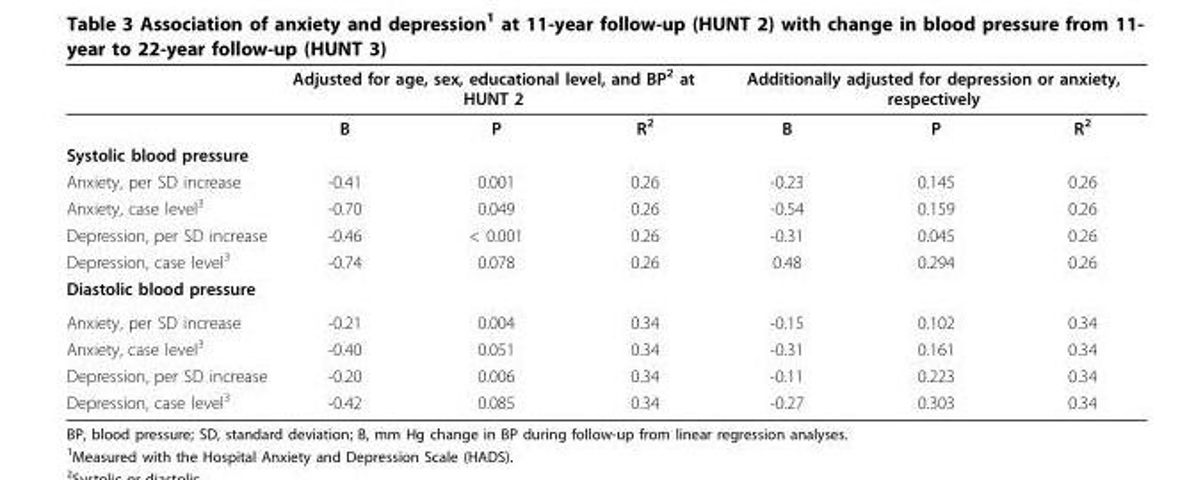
<table><thead><tr><td rowspan="2"></td><td colspan="3">Adjusted for age, sex, educational level, and BP<sup>2</sup> at HUNT 2</td><td colspan="3">Additionally adjusted for depression or anxiety, respectively</td></tr><tr><td>B</td><td>P</td><td>R<sup>2</sup></td><td>B</td><td>P</td><td>R<sup>2</sup></td></tr></thead><tbody><tr><td colspan="7">Systolic blood pressure</td></tr><tr><td>Anxiety, per SD increase</td><td>-0.41</td><td>0.001</td><td>0.26</td><td>-0.23</td><td>0.145</td><td>0.26</td></tr><tr><td>Anxiety, case level<sup>3</sup></td><td>-0.70</td><td>0.049</td><td>0.26</td><td>-0.54</td><td>0.159</td><td>0.26</td></tr><tr><td>Depression, per SD increase</td><td>-0.46</td><td>&lt; 0.001</td><td>0.26</td><td>-0.31</td><td>0.045</td><td>0.26</td></tr><tr><td>Depression, case level<sup>3</sup></td><td>-0.74</td><td>0.078</td><td>0.26</td><td>0.48</td><td>0.294</td><td>0.26</td></tr><tr><td colspan="7">Diastolic blood pressure</td></tr><tr><td>Anxiety, per SD increase</td><td>-0.21</td><td>0.004</td><td>0.34</td><td>-0.15</td><td>0.102</td><td>0.34</td></tr><tr><td>Anxiety, case level<sup>3</sup></td><td>-0.40</td><td>0.051</td><td>0.34</td><td>-0.31</td><td>0.161</td><td>0.34</td></tr><tr><td>Depression, per SD increase</td><td>-0.20</td><td>0.006</td><td>0.34</td><td>-0.11</td><td>0.223</td><td>0.34</td></tr><tr><td>Depression, case level<sup>3</sup></td><td>-0.42</td><td>0.085</td><td>0.34</td><td>-0.27</td><td>0.303</td><td>0.34</td></tr></tbody></table>